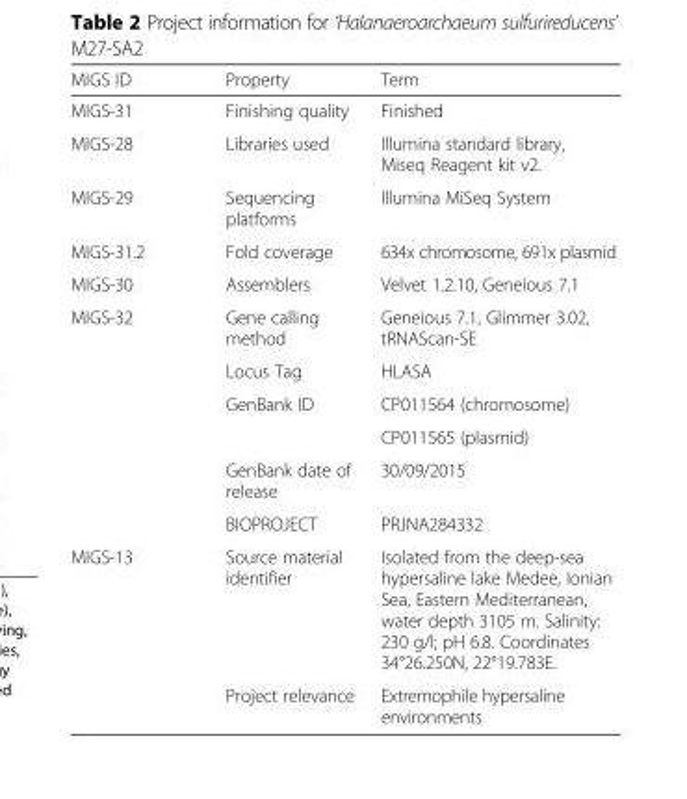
<table><thead><tr><td>MIGS ID</td><td>Property</td><td>Term</td></tr></thead><tbody><tr><td>MIGS-31</td><td>Finishing quality</td><td>Finished</td></tr><tr><td>MIGS-28</td><td>Libraries used</td><td>Illumina standard library, Miseq Reagent kit v2.</td></tr><tr><td>MIGS-29</td><td>Sequencing platforms</td><td>Illumina MiSeq System</td></tr><tr><td>MIGS-31.2</td><td>Fold coverage</td><td>634x chromosome, 691x plasmid</td></tr><tr><td>MIGS-30</td><td>Assemblers</td><td>Velvet 1.2.10, Geneious 7.1</td></tr><tr><td rowspan="6">MIGS-32</td><td>Gene calling method</td><td>Geneious 7.1, Glimmer 3.02, tRNAScan-SE</td></tr><tr><td>Locus Tag</td><td>HLASA</td></tr><tr><td>GenBank ID</td><td>CP011564 (chromosome)</td></tr><tr><td></td><td>CP011565 (plasmid)</td></tr><tr><td>GenBank date of release</td><td>30/09/2015</td></tr><tr><td>BIOPROJECT</td><td>PRJNA284332</td></tr><tr><td rowspan="2">MIGS-13</td><td>Source material identifier</td><td>Isolated from the deep-sea hypersaline lake Medee, Ionian Sea, Eastern Mediterranean, water depth 3105 m. Salinity: 230 g/l; pH 6.8. Coordinates 34°26.250N, 22°19.783E.</td></tr><tr><td>Project relevance</td><td>Extremophile hypersaline environments</td></tr></tbody></table>